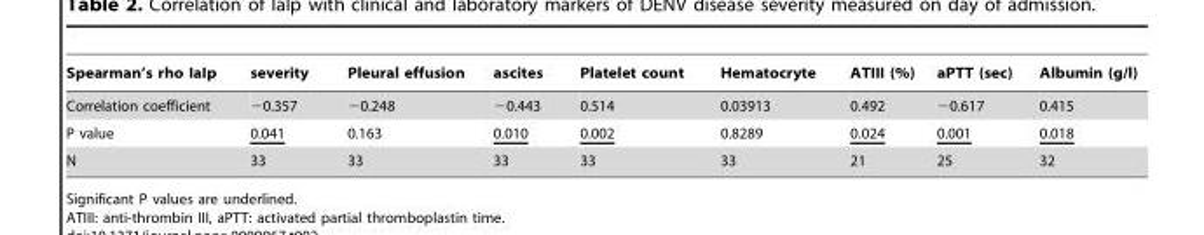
<table><thead><tr><td>Spearman’s rho IaIp</td><td>severity</td><td>Pleural effusion</td><td>ascites</td><td>Platelet count</td><td>Hematocryte</td><td>ATIII (%)</td><td>aPTT (sec)</td><td>Albumin (g/l)</td></tr></thead><tbody><tr><td>Correlation coefficient</td><td>−0.357</td><td>−0.248</td><td>−0.443</td><td>0.514</td><td>0.03913</td><td>0.492</td><td>−0.617</td><td>0.415</td></tr><tr><td>P value</td><td>0.041</td><td>0.163</td><td>0.010</td><td>0.002</td><td>0.8289</td><td>0.024</td><td>0.001</td><td>0.018</td></tr><tr><td>N</td><td>33</td><td>33</td><td>33</td><td>33</td><td>33</td><td>21</td><td>25</td><td>32</td></tr></tbody></table>